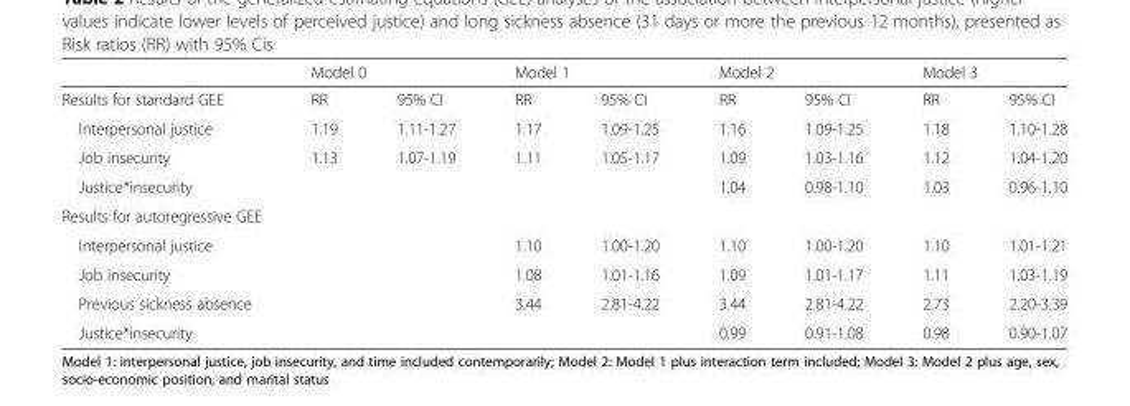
<table><thead><tr><td rowspan="2">Results for standard GEE</td><td colspan="2">Model 0</td><td colspan="2">Model 1</td><td colspan="2">Model 2</td><td colspan="2">Model 3</td></tr><tr><td>RR</td><td>95% CI</td><td>RR</td><td>95% CI</td><td>RR</td><td>95% CI</td><td>RR</td><td>95% CI</td></tr></thead><tbody><tr><td>Interpersonal justice</td><td>1.19</td><td>1.11-1.27</td><td>1.17</td><td>1.09-1.25</td><td>1.16</td><td>1.09-1.25</td><td>1.18</td><td>1.10-1.28</td></tr><tr><td>Job insecurity</td><td>1.13</td><td>1.07-1.19</td><td>1.11</td><td>1.05-1.17</td><td>1.09</td><td>1.03-1.16</td><td>1.12</td><td>1.04-1.20</td></tr><tr><td>Justice*insecurity</td><td></td><td></td><td></td><td></td><td>1.04</td><td>0.98-1.10</td><td>1.03</td><td>0.96-1.10</td></tr><tr><td colspan="9">Results for autoregressive GEE</td></tr><tr><td>Interpersonal justice</td><td></td><td></td><td>1.10</td><td>1.00-1.20</td><td>1.10</td><td>1.00-1.20</td><td>1.10</td><td>1.01-1.21</td></tr><tr><td>Job insecurity</td><td></td><td></td><td>1.08</td><td>1.01-1.16</td><td>1.09</td><td>1.01-1.17</td><td>1.11</td><td>1.03-1.19</td></tr><tr><td>Previous sickness absence</td><td></td><td></td><td>3.44</td><td>2.81-4.22</td><td>3.44</td><td>2.81-4.22</td><td>2.73</td><td>2.20-3.39</td></tr><tr><td>Justice*insecurity</td><td></td><td></td><td></td><td></td><td>0.99</td><td>0.91-1.08</td><td>0.98</td><td>0.90-1.07</td></tr></tbody></table>